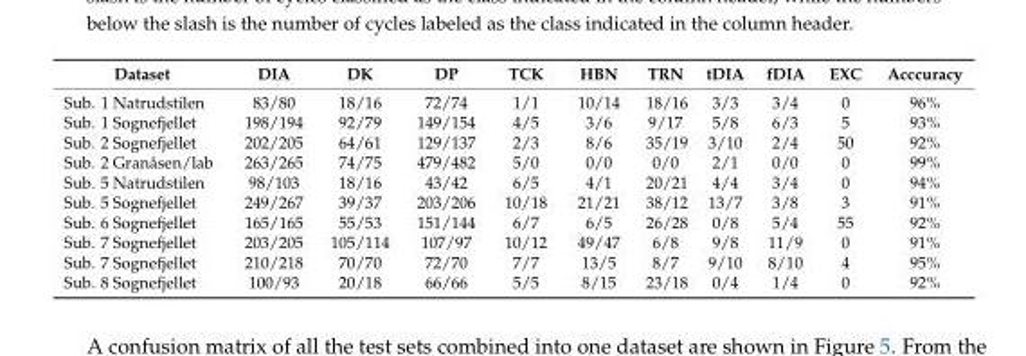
<table><thead><tr><td>Dataset</td><td>DIA</td><td>DK</td><td>DP</td><td>TCK</td><td>HBN</td><td>TRN</td><td>tDIA</td><td>fDIA</td><td>EXC</td><td>Acccuracy</td></tr></thead><tbody><tr><td>Sub. 1 Natrudstilen</td><td>83/80</td><td>18/16</td><td>72/74</td><td>1/1</td><td>10/14</td><td>18/16</td><td>3/3</td><td>3/4</td><td>0</td><td>96%</td></tr><tr><td>Sub. 1 Sognefjellet</td><td>198/194</td><td>92/79</td><td>149/154</td><td>4/5</td><td>3/6</td><td>9/17</td><td>5/8</td><td>6/3</td><td>5</td><td>93%</td></tr><tr><td>Sub. 2 Sognefjellet</td><td>202/205</td><td>64/61</td><td>129/137</td><td>2/3</td><td>8/6</td><td>35/19</td><td>3/10</td><td>2/4</td><td>50</td><td>92%</td></tr><tr><td>Sub. 2 Granåsen/lab</td><td>263/265</td><td>74/75</td><td>479/482</td><td>5/0</td><td>0/0</td><td>0/0</td><td>2/1</td><td>0/0</td><td>0</td><td>99%</td></tr><tr><td>Sub. 5 Natrudstilen</td><td>98/103</td><td>18/16</td><td>43/42</td><td>6/5</td><td>4/1</td><td>20/21</td><td>4/4</td><td>3/4</td><td>0</td><td>94%</td></tr><tr><td>Sub. 5 Sognefjellet</td><td>249/267</td><td>39/37</td><td>203/206</td><td>10/18</td><td>21/21</td><td>38/12</td><td>13/7</td><td>3/8</td><td>3</td><td>91%</td></tr><tr><td>Sub. 6 Sognefjellet</td><td>165/165</td><td>55/53</td><td>151/144</td><td>6/7</td><td>6/5</td><td>26/28</td><td>0/8</td><td>5/4</td><td>55</td><td>92%</td></tr><tr><td>Sub. 7 Sognefjellet</td><td>203/205</td><td>105/114</td><td>107/97</td><td>10/12</td><td>49/47</td><td>6/8</td><td>9/8</td><td>11/9</td><td>0</td><td>91%</td></tr><tr><td>Sub. 7 Sognefjellet</td><td>210/218</td><td>70/70</td><td>72/70</td><td>7/7</td><td>13/5</td><td>8/7</td><td>9/10</td><td>8/10</td><td>4</td><td>95%</td></tr><tr><td>Sub. 8 Sognefjellet</td><td>100/93</td><td>20/18</td><td>66/66</td><td>5/5</td><td>8/15</td><td>23/18</td><td>0/4</td><td>1/4</td><td>0</td><td>92%</td></tr></tbody></table>